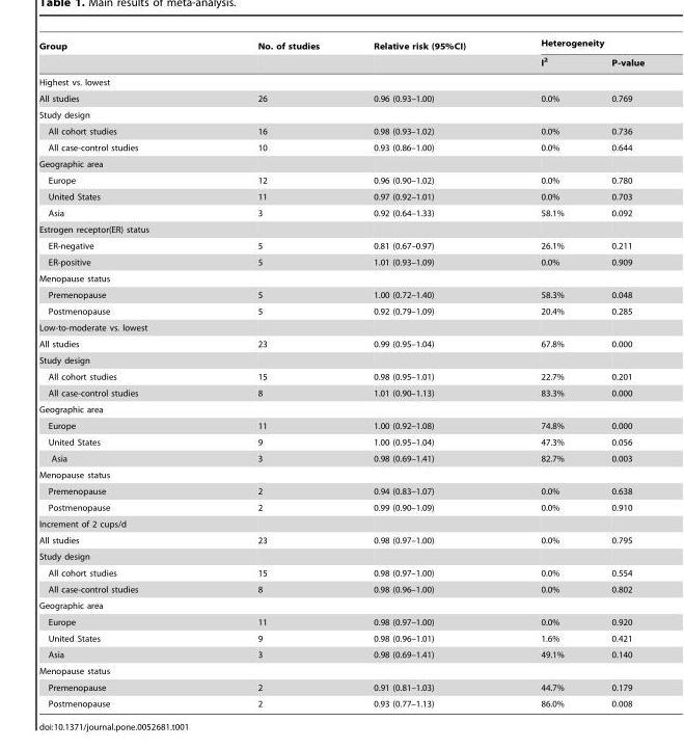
<table><thead><tr><td rowspan="2">Group</td><td rowspan="2">No. of studies</td><td rowspan="2">Relative risk (95%CI)</td><td colspan="2">Heterogeneity</td></tr><tr><td>I<sup>2</sup></td><td>P-value</td></tr></thead><tbody><tr><td colspan="5">Highest vs. lowest</td></tr><tr><td>All studies</td><td>26</td><td>0.96 (0.93–1.00)</td><td>0.0%</td><td>0.769</td></tr><tr><td colspan="5">Study design</td></tr><tr><td>All cohort studies</td><td>16</td><td>0.98 (0.93–1.02)</td><td>0.0%</td><td>0.736</td></tr><tr><td>All case-control studies</td><td>10</td><td>0.93 (0.86–1.00)</td><td>0.0%</td><td>0.644</td></tr><tr><td colspan="5">Geographic area</td></tr><tr><td>Europe</td><td>12</td><td>0.96 (0.90–1.02)</td><td>0.0%</td><td>0.780</td></tr><tr><td>United States</td><td>11</td><td>0.97 (0.92–1.01)</td><td>0.0%</td><td>0.703</td></tr><tr><td>Asia</td><td>3</td><td>0.92 (0.64–1.33)</td><td>58.1%</td><td>0.092</td></tr><tr><td colspan="5">Estrogen receptor(ER) status</td></tr><tr><td>ER-negative</td><td>5</td><td>0.81 (0.67–0.97)</td><td>26.1%</td><td>0.211</td></tr><tr><td>ER-positive</td><td>5</td><td>1.01 (0.93–1.09)</td><td>0.0%</td><td>0.909</td></tr><tr><td colspan="5">Menopause status</td></tr><tr><td>Premenopause</td><td>5</td><td>1.00 (0.72–1.40)</td><td>58.3%</td><td>0.048</td></tr><tr><td>Postmenopause</td><td>5</td><td>0.92 (0.79–1.09)</td><td>20.4%</td><td>0.285</td></tr><tr><td colspan="5">Low-to-moderate vs. lowest</td></tr><tr><td>All studies</td><td>23</td><td>0.99 (0.95–1.04)</td><td>67.8%</td><td>0.000</td></tr><tr><td colspan="5">Study design</td></tr><tr><td>All cohort studies</td><td>15</td><td>0.98 (0.95–1.01)</td><td>22.7%</td><td>0.201</td></tr><tr><td>All case-control studies</td><td>8</td><td>1.01 (0.90–1.13)</td><td>83.3%</td><td>0.000</td></tr><tr><td colspan="5">Geographic area</td></tr><tr><td>Europe</td><td>11</td><td>1.00 (0.92–1.08)</td><td>74.8%</td><td>0.000</td></tr><tr><td>United States</td><td>9</td><td>1.00 (0.95–1.04)</td><td>47.3%</td><td>0.056</td></tr><tr><td>Asia</td><td>3</td><td>0.98 (0.69–1.41)</td><td>82.7%</td><td>0.003</td></tr><tr><td colspan="5">Menopause status</td></tr><tr><td>Premenopause</td><td>2</td><td>0.94 (0.83–1.07)</td><td>0.0%</td><td>0.638</td></tr><tr><td>Postmenopause</td><td>2</td><td>0.99 (0.90–1.09)</td><td>0.0%</td><td>0.910</td></tr><tr><td colspan="5">Increment of 2 cups/d</td></tr><tr><td>All studies</td><td>23</td><td>0.98 (0.97–1.00)</td><td>0.0%</td><td>0.795</td></tr><tr><td colspan="5">Study design</td></tr><tr><td>All cohort studies</td><td>15</td><td>0.98 (0.97–1.00)</td><td>0.0%</td><td>0.554</td></tr><tr><td>All case-control studies</td><td>8</td><td>0.98 (0.96–1.00)</td><td>0.0%</td><td>0.802</td></tr><tr><td colspan="5">Geographic area</td></tr><tr><td>Europe</td><td>11</td><td>0.98 (0.97–1.00)</td><td>0.0%</td><td>0.920</td></tr><tr><td>United States</td><td>9</td><td>0.98 (0.96–1.01)</td><td>1.6%</td><td>0.421</td></tr><tr><td>Asia</td><td>3</td><td>0.98 (0.69–1.41)</td><td>49.1%</td><td>0.140</td></tr><tr><td colspan="5">Menopause status</td></tr><tr><td>Premenopause</td><td>2</td><td>0.91 (0.81–1.03)</td><td>44.7%</td><td>0.179</td></tr><tr><td>Postmenopause</td><td>2</td><td>0.93 (0.77–1.13)</td><td>86.0%</td><td>0.008</td></tr></tbody></table>